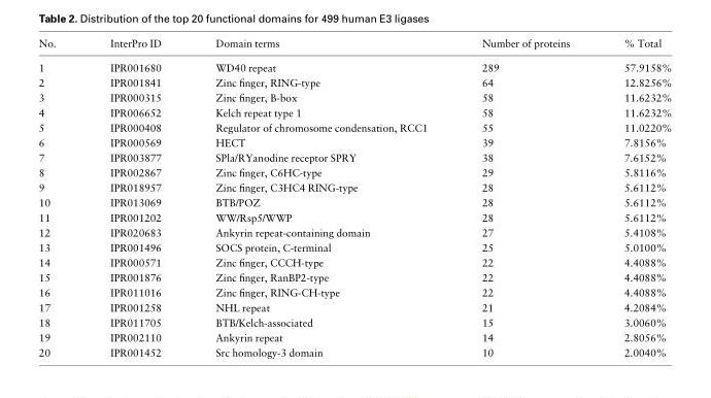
<table><thead><tr><td>No.</td><td>InterPro ID</td><td>Domain terms</td><td>Number of proteins</td><td>% Total</td></tr></thead><tbody><tr><td>1</td><td>IPR001680</td><td>WD40 repeat</td><td>289</td><td>57.9158%</td></tr><tr><td>2</td><td>IPR001841</td><td>Zinc finger, RING-type</td><td>64</td><td>12.8256%</td></tr><tr><td>3</td><td>IPR000315</td><td>Zinc finger, B-box</td><td>58</td><td>11.6232%</td></tr><tr><td>4</td><td>IPR006652</td><td>Kelch repeat type 1</td><td>58</td><td>11.6232%</td></tr><tr><td>5</td><td>IPR000408</td><td>Regulator of chromosome condensation, RCC1</td><td>55</td><td>11.0220%</td></tr><tr><td>6</td><td>IPR000569</td><td>HECT</td><td>39</td><td>7.8156%</td></tr><tr><td>7</td><td>IPR003877</td><td>SPla/RYanodine receptor SPRY</td><td>38</td><td>7.6152%</td></tr><tr><td>8</td><td>IPR002867</td><td>Zinc finger, C6HC-type</td><td>29</td><td>5.8116%</td></tr><tr><td>9</td><td>IPR018957</td><td>Zinc finger, C3HC4 RING-type</td><td>28</td><td>5.6112%</td></tr><tr><td>10</td><td>IPR013069</td><td>BTB/POZ</td><td>28</td><td>5.6112%</td></tr><tr><td>11</td><td>IPR001202</td><td>WW/Rsp5/WWP</td><td>28</td><td>5.6112%</td></tr><tr><td>12</td><td>IPR020683</td><td>Ankyrin repeat-containing domain</td><td>27</td><td>5.4108%</td></tr><tr><td>13</td><td>IPR001496</td><td>SOCS protein, C-terminal</td><td>25</td><td>5.0100%</td></tr><tr><td>14</td><td>IPR000571</td><td>Zinc finger, CCCH-type</td><td>22</td><td>4.4088%</td></tr><tr><td>15</td><td>IPR001876</td><td>Zinc finger, RanBP2-type</td><td>22</td><td>4.4088%</td></tr><tr><td>16</td><td>IPR011016</td><td>Zinc finger, RING-CH-type</td><td>22</td><td>4.4088%</td></tr><tr><td>17</td><td>IPR001258</td><td>NHL repeat</td><td>21</td><td>4.2084%</td></tr><tr><td>18</td><td>IPR011705</td><td>BTB/Kelch-associated</td><td>15</td><td>3.0060%</td></tr><tr><td>19</td><td>IPR002110</td><td>Ankyrin repeat</td><td>14</td><td>2.8056%</td></tr><tr><td>20</td><td>IPR001452</td><td>Src homology-3 domain</td><td>10</td><td>2.0040%</td></tr></tbody></table>